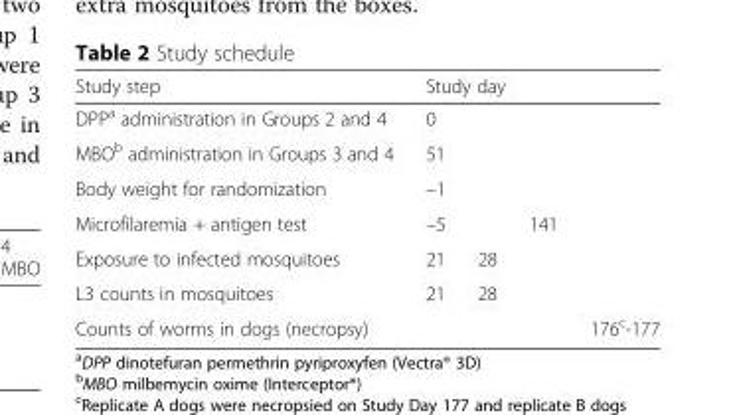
<table><thead><tr><td rowspan="2">Study step DPP<sup>a</sup> administration in Groups 2 and 4</td><td colspan="4">Study day</td></tr><tr><td>0</td><td></td><td></td><td></td></tr></thead><tbody><tr><td>MBO<sup>b</sup> administration in Groups 3 and 4</td><td>51</td><td></td><td></td><td></td></tr><tr><td>Body weight for randomization</td><td>–1</td><td></td><td></td><td></td></tr><tr><td>Microfilaremia + antigen test</td><td>–5</td><td></td><td>141</td><td></td></tr><tr><td>Exposure to infected mosquitoes</td><td>21</td><td>28</td><td></td><td></td></tr><tr><td>L3 counts in mosquitoes</td><td>21</td><td>28</td><td></td><td></td></tr><tr><td>Counts of worms in dogs (necropsy)</td><td></td><td></td><td></td><td>176<sup>c</sup>-177</td></tr></tbody></table>